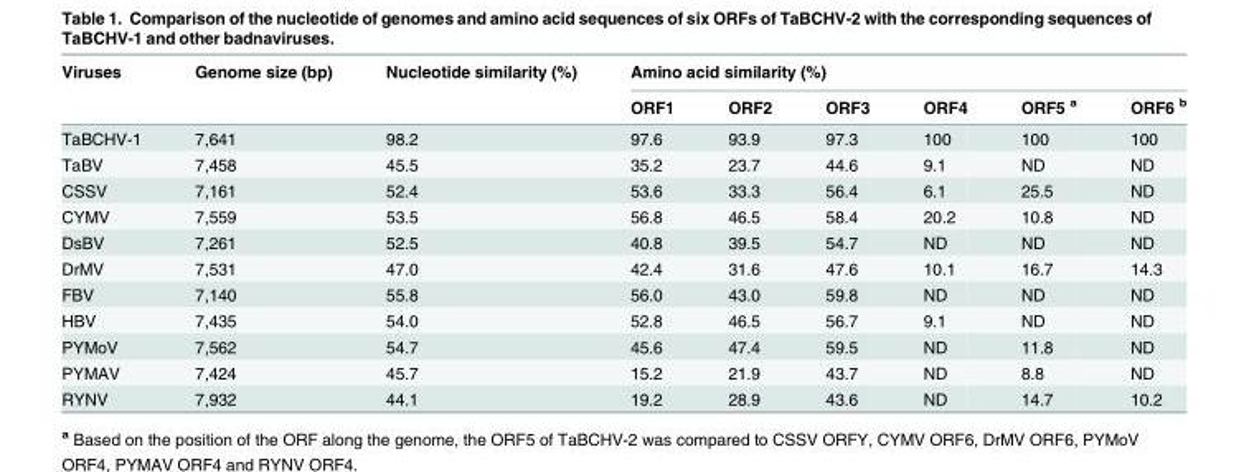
<table><thead><tr><td rowspan="2">Viruses</td><td rowspan="2">Genome size (bp)</td><td rowspan="2">Nucleotide similarity (%)</td><td colspan="6">Amino acid similarity (%)</td></tr><tr><td>ORF1</td><td>ORF2</td><td>ORF3</td><td>ORF4</td><td>ORF5 <sup>a</sup></td><td>ORF6 <sup>b</sup></td></tr></thead><tbody><tr><td>TaBCHV-1</td><td>7,641</td><td>98.2</td><td>97.6</td><td>93.9</td><td>97.3</td><td>100</td><td>100</td><td>100</td></tr><tr><td>TaBV</td><td>7,458</td><td>45.5</td><td>35.2</td><td>23.7</td><td>44.6</td><td>9.1</td><td>ND</td><td>ND</td></tr><tr><td>CSSV</td><td>7,161</td><td>52.4</td><td>53.6</td><td>33.3</td><td>56.4</td><td>6.1</td><td>25.5</td><td>ND</td></tr><tr><td>CYMV</td><td>7,559</td><td>53.5</td><td>56.8</td><td>46.5</td><td>58.4</td><td>20.2</td><td>10.8</td><td>ND</td></tr><tr><td>DsBV</td><td>7,261</td><td>52.5</td><td>40.8</td><td>39.5</td><td>54.7</td><td>ND</td><td>ND</td><td>ND</td></tr><tr><td>DrMV</td><td>7,531</td><td>47.0</td><td>42.4</td><td>31.6</td><td>47.6</td><td>10.1</td><td>16.7</td><td>14.3</td></tr><tr><td>FBV</td><td>7,140</td><td>55.8</td><td>56.0</td><td>43.0</td><td>59.8</td><td>ND</td><td>ND</td><td>ND</td></tr><tr><td>HBV</td><td>7,435</td><td>54.0</td><td>52.8</td><td>46.5</td><td>56.7</td><td>9.1</td><td>ND</td><td>ND</td></tr><tr><td>PYMoV</td><td>7,562</td><td>54.7</td><td>45.6</td><td>47.4</td><td>59.5</td><td>ND</td><td>11.8</td><td>ND</td></tr><tr><td>PYMAV</td><td>7,424</td><td>45.7</td><td>15.2</td><td>21.9</td><td>43.7</td><td>ND</td><td>8.8</td><td>ND</td></tr><tr><td>RYNV</td><td>7,932</td><td>44.1</td><td>19.2</td><td>28.9</td><td>43.6</td><td>ND</td><td>14.7</td><td>10.2</td></tr></tbody></table>